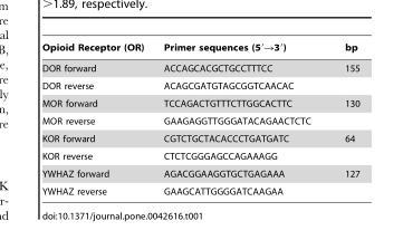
<table><thead><tr><td>Opioid Receptor (OR)</td><td>Primer sequences (5′→3′)</td><td>bp</td></tr></thead><tbody><tr><td>DOR forward</td><td>ACCAGCACGCTGCCTTTCC</td><td>155</td></tr><tr><td>DOR reverse</td><td>ACAGCGATGTAGCGGTCAACAC</td><td></td></tr><tr><td>MOR forward</td><td>TCCAGACTGTTTCTTGGCACTTC</td><td>130</td></tr><tr><td>MOR reverse</td><td>GAAGAGGTTGGGATACAGAACTCTC</td><td></td></tr><tr><td>KOR forward</td><td>CGTCTGCTACACCCTGATGATC</td><td>64</td></tr><tr><td>KOR reverse</td><td>CTCTCGGGAGCCAGAAAGG</td><td></td></tr><tr><td>YWHAZ forward</td><td>AGACGGAAGGTGCTGAGAAA</td><td>127</td></tr><tr><td>YWHAZ reverse</td><td>GAAGCATTGGGGATCAAGAA</td><td></td></tr></tbody></table>